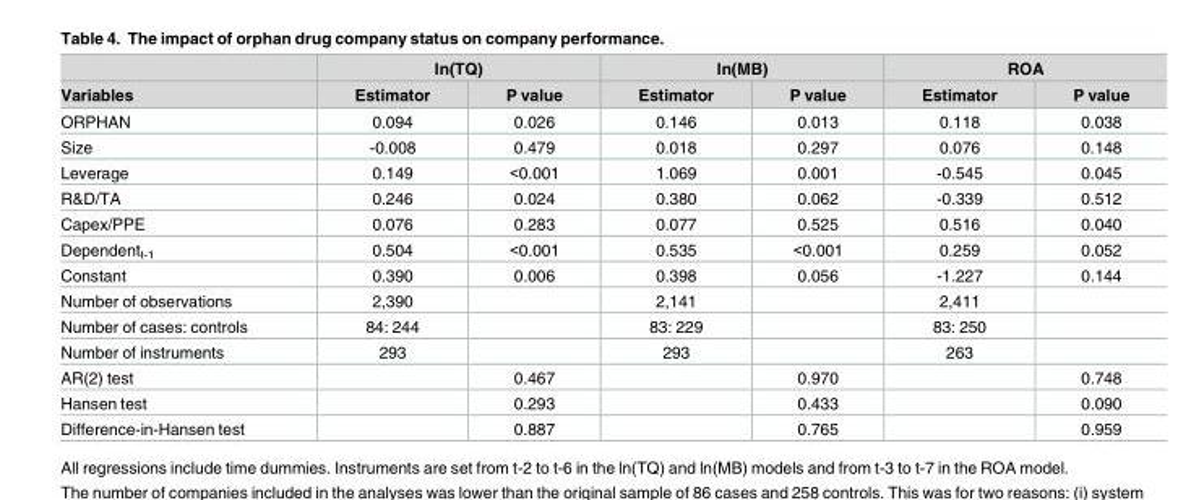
<table><thead><tr><td rowspan="2">Variables</td><td colspan="2">ln(TQ)</td><td colspan="2">ln(MB)</td><td colspan="2">ROA</td></tr><tr><td>Estimator</td><td>P value</td><td>Estimator</td><td>P value</td><td>Estimator</td><td>P value</td></tr></thead><tbody><tr><td>ORPHAN</td><td>0.094</td><td>0.026</td><td>0.146</td><td>0.013</td><td>0.118</td><td>0.038</td></tr><tr><td>Size</td><td>-0.008</td><td>0.479</td><td>0.018</td><td>0.297</td><td>0.076</td><td>0.148</td></tr><tr><td>Leverage</td><td>0.149</td><td>&lt;0.001</td><td>1.069</td><td>0.001</td><td>-0.545</td><td>0.045</td></tr><tr><td>R&amp;D/TA</td><td>0.246</td><td>0.024</td><td>0.380</td><td>0.062</td><td>-0.339</td><td>0.512</td></tr><tr><td>Capex/PPE</td><td>0.076</td><td>0.283</td><td>0.077</td><td>0.525</td><td>0.516</td><td>0.040</td></tr><tr><td>Dependent<sub>t-1</sub></td><td>0.504</td><td>&lt;0.001</td><td>0.535</td><td>&lt;0.001</td><td>0.259</td><td>0.052</td></tr><tr><td>Constant</td><td>0.390</td><td>0.006</td><td>0.398</td><td>0.056</td><td>-1.227</td><td>0.144</td></tr><tr><td>Number of observations</td><td>2,390</td><td></td><td>2,141</td><td></td><td>2,411</td><td></td></tr><tr><td>Number of cases: controls</td><td>84: 244</td><td></td><td>83: 229</td><td></td><td>83: 250</td><td></td></tr><tr><td>Number of instruments</td><td>293</td><td></td><td>293</td><td></td><td>263</td><td></td></tr><tr><td>AR(2) test</td><td></td><td>0.467</td><td></td><td>0.970</td><td></td><td>0.748</td></tr><tr><td>Hansen test</td><td></td><td>0.293</td><td></td><td>0.433</td><td></td><td>0.090</td></tr><tr><td>Difference-in-Hansen test</td><td></td><td>0.887</td><td></td><td>0.765</td><td></td><td>0.959</td></tr></tbody></table>